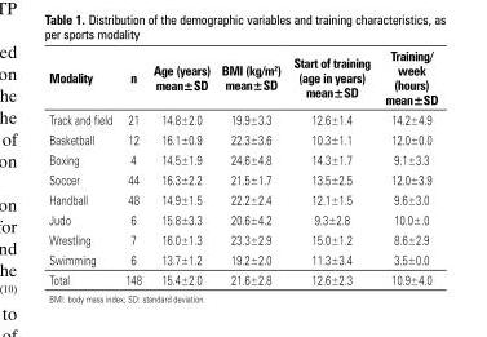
<table><thead><tr><td>Modality</td><td>n</td><td>Age (years) mean±SD</td><td>BMI (kg/m<sup>2</sup>) mean±SD</td><td>Start of training (age in years) mean±SD</td><td>Training/ week (hours) mean±SD</td></tr></thead><tbody><tr><td>Track and field</td><td>21</td><td>14.8±2.0</td><td>19.9±3.3</td><td>12.6±1.4</td><td>14.2±4.9</td></tr><tr><td>Basketball</td><td>12</td><td>16.1±0.9</td><td>22.3±3.6</td><td>10.3±1.1</td><td>12.0±0.0</td></tr><tr><td>Boxing</td><td>4</td><td>14.5±1.9</td><td>24.6±4.8</td><td>14.3±1.7</td><td>9.1±3.3</td></tr><tr><td>Soccer</td><td>44</td><td>16.3±2.2</td><td>21.5±1.7</td><td>13.5±2.5</td><td>12.0±3.9</td></tr><tr><td>Handball</td><td>48</td><td>14.9±1.5</td><td>22.2±2.4</td><td>12.1±1.5</td><td>9.6±3.0</td></tr><tr><td>Judo</td><td>6</td><td>15.8±3.3</td><td>20.6±4.2</td><td>9.3±2.8</td><td>10.0±.0</td></tr><tr><td>Wrestling</td><td>7</td><td>16.0±1.3</td><td>23.3±2.9</td><td>15.0±1.2</td><td>8.6±2.9</td></tr><tr><td>Swimming</td><td>6</td><td>13.7±1.2</td><td>19.2±2.0</td><td>11.3±3.4</td><td>3.5±0.0</td></tr><tr><td>Total</td><td>148</td><td>15.4±2.0</td><td>21.6±2.8</td><td>12.6±2.3</td><td>10.9±4.0</td></tr></tbody></table>